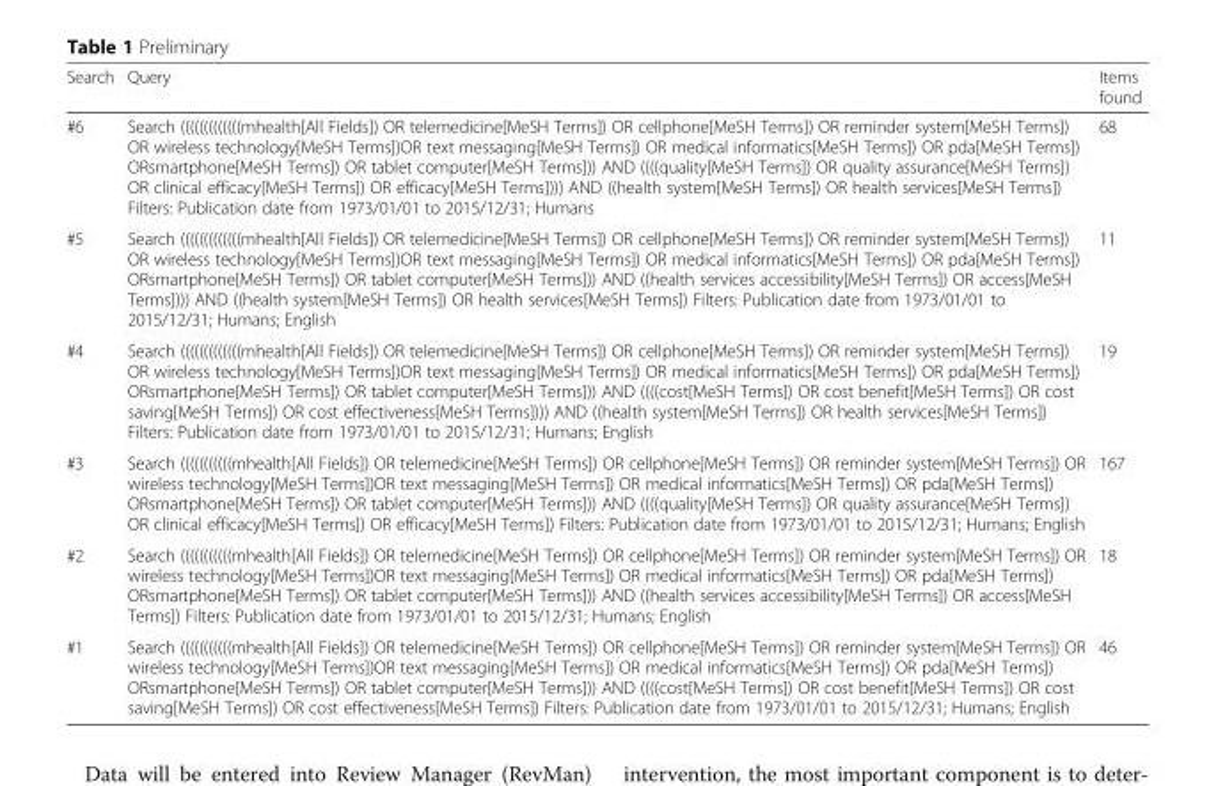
<table><thead><tr><td>Search</td><td>Query</td><td>Items found</td></tr></thead><tbody><tr><td>#6</td><td>Search (((((((((((((mhealth[All Fields]) OR telemedicine[MeSH Terms]) OR cellphone[MeSH Terms]) OR reminder system[MeSH Terms]) OR wireless technology[MeSH Terms])OR text messaging[MeSH Terms]) OR medical informatics[MeSH Terms]) OR pda[MeSH Terms]) ORsmartphone[MeSH Terms]) OR tablet computer[MeSH Terms])) AND ((((quality[MeSH Terms]) OR quality assurance[MeSH Terms]) OR clinical efficacy[MeSH Terms]) OR efficacy[MeSH Terms]))) AND ((health system[MeSH Terms]) OR health services[MeSH Terms]) Filters: Publication date from 1973/01/01 to 2015/12/31; Humans</td><td>68</td></tr><tr><td>#5</td><td>Search (((((((((((((mhealth[All Fields]) OR telemedicine[MeSH Terms]) OR cellphone[MeSH Terms]) OR reminder system[MeSH Terms]) OR wireless technology[MeSH Terms])OR text messaging[MeSH Terms]) OR medical informatics[MeSH Terms]) OR pda[MeSH Terms]) ORsmartphone[MeSH Terms]) OR tablet computer[MeSH Terms])) AND ((health services accessibility[MeSH Terms]) OR access[MeSH Terms]))) AND ((health system[MeSH Terms]) OR health services[MeSH Terms]) Filters: Publication date from 1973/01/01 to 2015/12/31; Humans; English</td><td>11</td></tr><tr><td>#4</td><td>Search (((((((((((((mhealth[All Fields]) OR telemedicine[MeSH Terms]) OR cellphone[MeSH Terms]) OR reminder system[MeSH Terms]) OR wireless technology[MeSH Terms])OR text messaging[MeSH Terms]) OR medical informatics[MeSH Terms]) OR pda[MeSH Terms]) ORsmartphone[MeSH Terms]) OR tablet computer[MeSH Terms])) AND ((((cost[MeSH Terms]) OR cost benefit[MeSH Terms]) OR cost saving[MeSH Terms]) OR cost effectiveness[MeSH Terms]))) AND ((health system[MeSH Terms]) OR health services[MeSH Terms]) Filters: Publication date from 1973/01/01 to 2015/12/31; Humans; English</td><td>19</td></tr><tr><td>#3</td><td>Search (((((((((((mhealth[All Fields]) OR telemedicine[MeSH Terms]) OR cellphone[MeSH Terms]) OR reminder system[MeSH Terms]) OR wireless technology[MeSH Terms])OR text messaging[MeSH Terms]) OR medical informatics[MeSH Terms]) OR pda[MeSH Terms]) ORsmartphone[MeSH Terms]) OR tablet computer[MeSH Terms])) AND ((((quality[MeSH Terms]) OR quality assurance[MeSH Terms]) OR clinical efficacy[MeSH Terms]) OR efficacy[MeSH Terms]) Filters: Publication date from 1973/01/01 to 2015/12/31; Humans; English</td><td>167</td></tr><tr><td>#2</td><td>Search (((((((((((mhealth[All Fields]) OR telemedicine[MeSH Terms]) OR cellphone[MeSH Terms]) OR reminder system[MeSH Terms]) OR wireless technology[MeSH Terms])OR text messaging[MeSH Terms]) OR medical informatics[MeSH Terms]) OR pda[MeSH Terms]) ORsmartphone[MeSH Terms]) OR tablet computer[MeSH Terms])) AND ((health services accessibility[MeSH Terms]) OR access[MeSH Terms]) Filters: Publication date from 1973/01/01 to 2015/12/31; Humans; English</td><td>18</td></tr><tr><td>#1</td><td>Search (((((((((((mhealth[All Fields]) OR telemedicine[MeSH Terms]) OR cellphone[MeSH Terms]) OR reminder system[MeSH Terms]) OR wireless technology[MeSH Terms])OR text messaging[MeSH Terms]) OR medical informatics[MeSH Terms]) OR pda[MeSH Terms]) ORsmartphone[MeSH Terms]) OR tablet computer[MeSH Terms])) AND ((((cost[MeSH Terms]) OR cost benefit[MeSH Terms]) OR cost saving[MeSH Terms]) OR cost effectiveness[MeSH Terms]) Filters: Publication date from 1973/01/01 to 2015/12/31; Humans; English</td><td>46</td></tr></tbody></table>